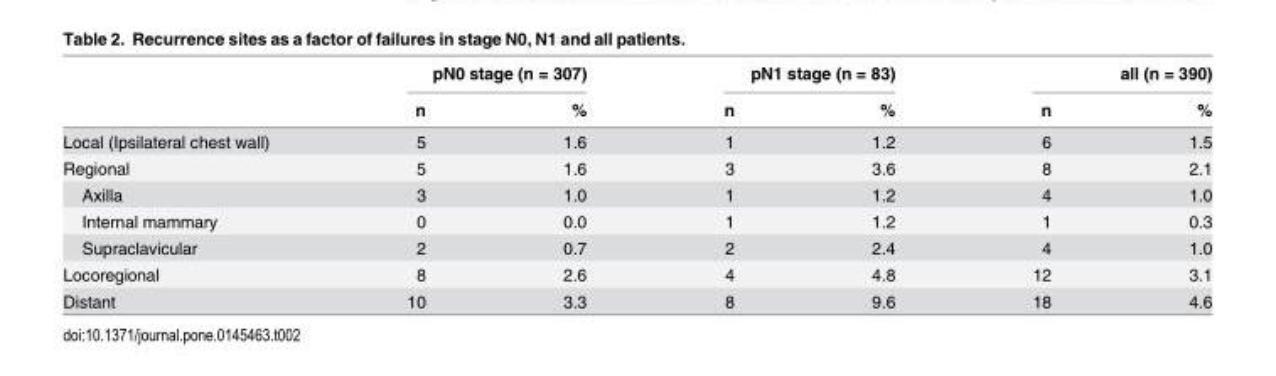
<table><thead><tr><td rowspan="2"></td><td colspan="2">pN0 stage (n = 307)</td><td colspan="2">pN1 stage (n = 83)</td><td colspan="2">all (n = 390)</td></tr><tr><td>n</td><td>%</td><td>n</td><td>%</td><td>n</td><td>%</td></tr></thead><tbody><tr><td>Local (Ipsilateral chest wall)</td><td>5</td><td>1.6</td><td>1</td><td>1.2</td><td>6</td><td>1.5</td></tr><tr><td>Regional</td><td>5</td><td>1.6</td><td>3</td><td>3.6</td><td>8</td><td>2.1</td></tr><tr><td>Axilla</td><td>3</td><td>1.0</td><td>1</td><td>1.2</td><td>4</td><td>1.0</td></tr><tr><td>Internal mammary</td><td>0</td><td>0.0</td><td>1</td><td>1.2</td><td>1</td><td>0.3</td></tr><tr><td>Supraclavicular</td><td>2</td><td>0.7</td><td>2</td><td>2.4</td><td>4</td><td>1.0</td></tr><tr><td>Locoregional</td><td>8</td><td>2.6</td><td>4</td><td>4.8</td><td>12</td><td>3.1</td></tr><tr><td>Distant</td><td>10</td><td>3.3</td><td>8</td><td>9.6</td><td>18</td><td>4.6</td></tr></tbody></table>